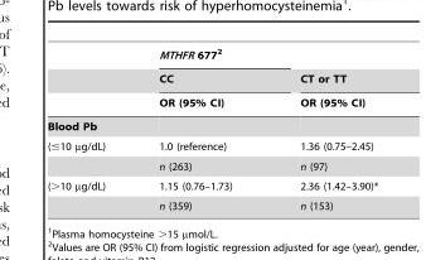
<table><thead><tr><td rowspan="3"></td><td rowspan="3">MTHFR 677<sup>2</sup> CC OR (95% CI)</td><td rowspan="3">CT or TT OR (95% CI)</td></tr><tr></tr><tr></tr></thead><tbody><tr><td colspan="3">Blood Pb</td></tr><tr><td rowspan="2">(≤10 µg/dL)</td><td>1.0 (reference)</td><td>1.36 (0.75–2.45)</td></tr><tr><td>n (263)</td><td>n (97)</td></tr><tr><td rowspan="2">(&gt;10 µg/dL)</td><td>1.15 (0.76–1.73)</td><td>2.36 (1.42–3.90)*</td></tr><tr><td>n (359)</td><td>n (153)</td></tr></tbody></table>